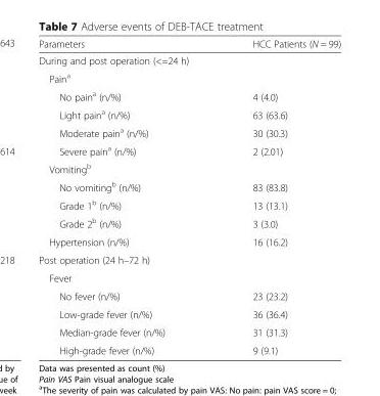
<table><thead><tr><td>Parameters</td><td>HCC Patients (N = 99)</td></tr></thead><tbody><tr><td colspan="2">During and post operation (&lt;=24 h)</td></tr><tr><td colspan="2">Pain<sup>a</sup></td></tr><tr><td>No pain<sup>a</sup> (n/%)</td><td>4 (4.0)</td></tr><tr><td>Light pain<sup>a</sup> (n/%)</td><td>63 (63.6)</td></tr><tr><td>Moderate pain<sup>a</sup> (n/%)</td><td>30 (30.3)</td></tr><tr><td>Severe pain<sup>a</sup> (n/%)</td><td>2 (2.01)</td></tr><tr><td colspan="2">Vomiting<sup>b</sup></td></tr><tr><td>No vomiting<sup>b</sup> (n/%)</td><td>83 (83.8)</td></tr><tr><td>Grade 1<sup>b</sup> (n/%)</td><td>13 (13.1)</td></tr><tr><td>Grade 2<sup>b</sup> (n/%)</td><td>3 (3.0)</td></tr><tr><td>Hypertension (n/%)</td><td>16 (16.2)</td></tr><tr><td colspan="2">Post operation (24 h–72 h)</td></tr><tr><td colspan="2">Fever</td></tr><tr><td>No fever (n/%)</td><td>23 (23.2)</td></tr><tr><td>Low-grade fever (n/%)</td><td>36 (36.4)</td></tr><tr><td>Median-grade fever (n/%)</td><td>31 (31.3)</td></tr><tr><td>High-grade fever (n/%)</td><td>9 (9.1)</td></tr></tbody></table>